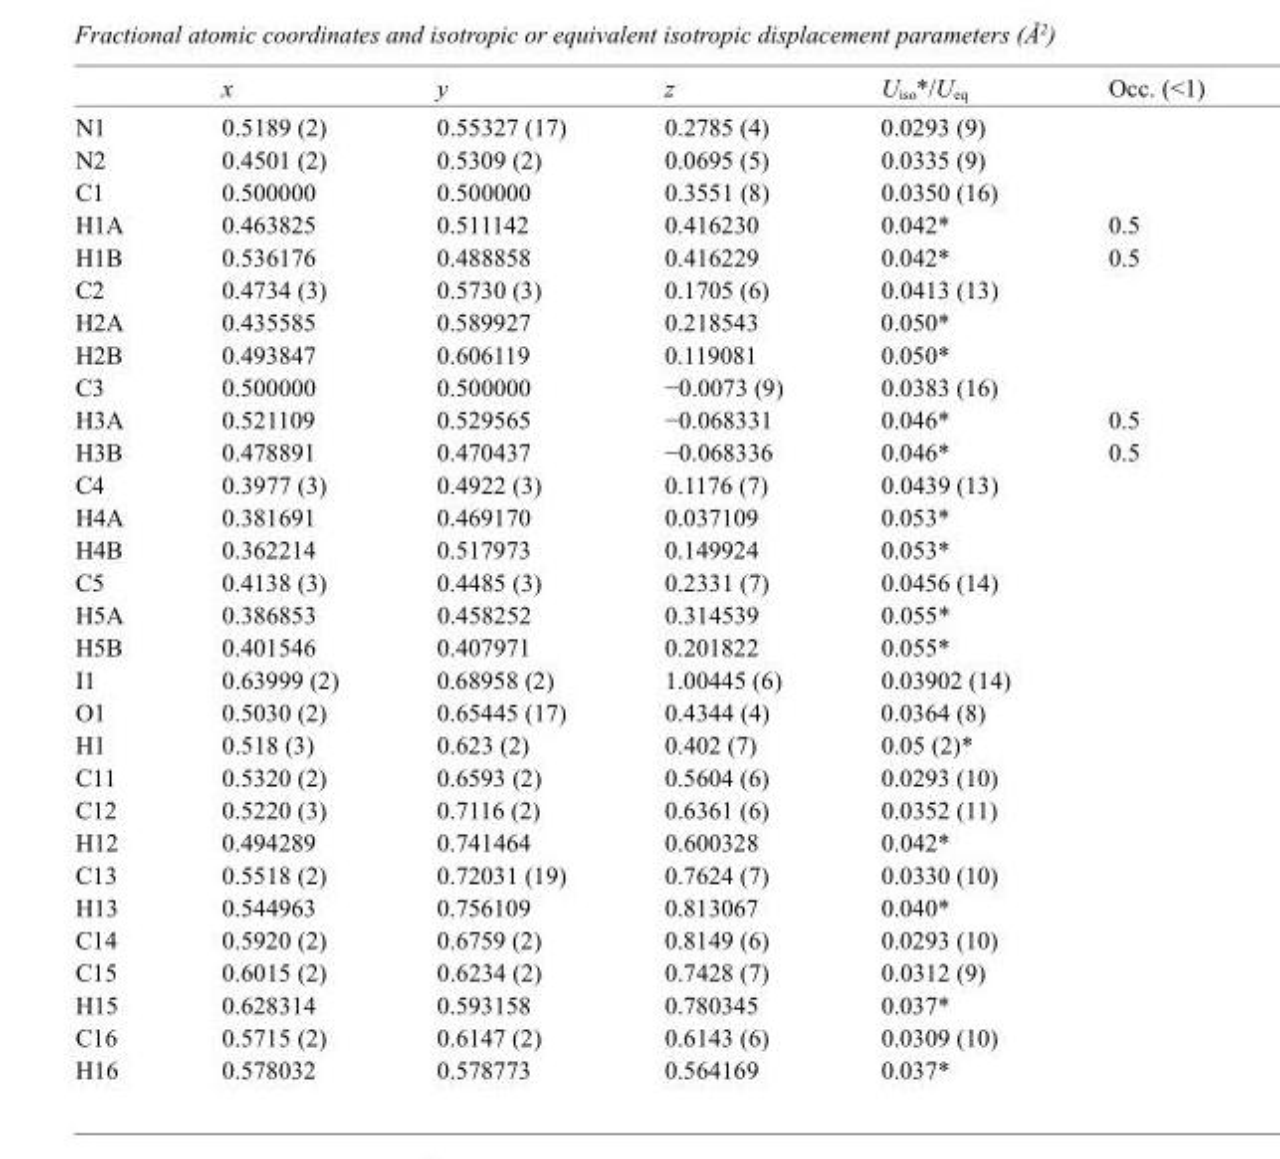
<table><thead><tr><td></td><td>x</td><td>y</td><td>z</td><td>U<sub>iso</sub>*/U<sub>eq</sub></td><td>Occ. (&lt;1)</td></tr></thead><tbody><tr><td>N1</td><td>0.5189 (2)</td><td>0.55327 (17)</td><td>0.2785 (4)</td><td>0.0293 (9)</td><td></td></tr><tr><td>N2</td><td>0.4501 (2)</td><td>0.5309 (2)</td><td>0.0695 (5)</td><td>0.0335 (9)</td><td></td></tr><tr><td>C1</td><td>0.500000</td><td>0.500000</td><td>0.3551 (8)</td><td>0.0350 (16)</td><td></td></tr><tr><td>H1A</td><td>0.463825</td><td>0.511142</td><td>0.416230</td><td>0.042*</td><td>0.5</td></tr><tr><td>H1B</td><td>0.536176</td><td>0.488858</td><td>0.416229</td><td>0.042*</td><td>0.5</td></tr><tr><td>C2</td><td>0.4734 (3)</td><td>0.5730 (3)</td><td>0.1705 (6)</td><td>0.0413 (13)</td><td></td></tr><tr><td>H2A</td><td>0.435585</td><td>0.589927</td><td>0.218543</td><td>0.050*</td><td></td></tr><tr><td>H2B</td><td>0.493847</td><td>0.606119</td><td>0.119081</td><td>0.050*</td><td></td></tr><tr><td>C3</td><td>0.500000</td><td>0.500000</td><td>−0.0073 (9)</td><td>0.0383 (16)</td><td></td></tr><tr><td>H3A</td><td>0.521109</td><td>0.529565</td><td>−0.068331</td><td>0.046*</td><td>0.5</td></tr><tr><td>H3B</td><td>0.478891</td><td>0.470437</td><td>−0.068336</td><td>0.046*</td><td>0.5</td></tr><tr><td>C4</td><td>0.3977 (3)</td><td>0.4922 (3)</td><td>0.1176 (7)</td><td>0.0439 (13)</td><td></td></tr><tr><td>H4A</td><td>0.381691</td><td>0.469170</td><td>0.037109</td><td>0.053*</td><td></td></tr><tr><td>H4B</td><td>0.362214</td><td>0.517973</td><td>0.149924</td><td>0.053*</td><td></td></tr><tr><td>C5</td><td>0.4138 (3)</td><td>0.4485 (3)</td><td>0.2331 (7)</td><td>0.0456 (14)</td><td></td></tr><tr><td>H5A</td><td>0.386853</td><td>0.458252</td><td>0.314539</td><td>0.055*</td><td></td></tr><tr><td>H5B</td><td>0.401546</td><td>0.407971</td><td>0.201822</td><td>0.055*</td><td></td></tr><tr><td>I1</td><td>0.63999 (2)</td><td>0.68958 (2)</td><td>1.00445 (6)</td><td>0.03902 (14)</td><td></td></tr><tr><td>O1</td><td>0.5030 (2)</td><td>0.65445 (17)</td><td>0.4344 (4)</td><td>0.0364 (8)</td><td></td></tr><tr><td>H1</td><td>0.518 (3)</td><td>0.623 (2)</td><td>0.402 (7)</td><td>0.05 (2)*</td><td></td></tr><tr><td>C11</td><td>0.5320 (2)</td><td>0.6593 (2)</td><td>0.5604 (6)</td><td>0.0293 (10)</td><td></td></tr><tr><td>C12</td><td>0.5220 (3)</td><td>0.7116 (2)</td><td>0.6361 (6)</td><td>0.0352 (11)</td><td></td></tr><tr><td>H12</td><td>0.494289</td><td>0.741464</td><td>0.600328</td><td>0.042*</td><td></td></tr><tr><td>C13</td><td>0.5518 (2)</td><td>0.72031 (19)</td><td>0.7624 (7)</td><td>0.0330 (10)</td><td></td></tr><tr><td>H13</td><td>0.544963</td><td>0.756109</td><td>0.813067</td><td>0.040*</td><td></td></tr><tr><td>C14</td><td>0.5920 (2)</td><td>0.6759 (2)</td><td>0.8149 (6)</td><td>0.0293 (10)</td><td></td></tr><tr><td>C15</td><td>0.6015 (2)</td><td>0.6234 (2)</td><td>0.7428 (7)</td><td>0.0312 (9)</td><td></td></tr><tr><td>H15</td><td>0.628314</td><td>0.593158</td><td>0.780345</td><td>0.037*</td><td></td></tr><tr><td>C16</td><td>0.5715 (2)</td><td>0.6147 (2)</td><td>0.6143 (6)</td><td>0.0309 (10)</td><td></td></tr><tr><td>H16</td><td>0.578032</td><td>0.578773</td><td>0.564169</td><td>0.037*</td><td></td></tr></tbody></table>